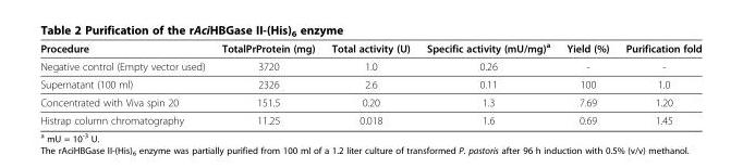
<table><thead><tr><td>Procedure</td><td>TotalPrProtein (mg)</td><td>Total activity (U)</td><td>Specific activity (mU/mg)<sup>a</sup></td><td>Yield (%)</td><td>Purification fold</td></tr></thead><tbody><tr><td>Negative control (Empty vector used)</td><td>3720</td><td>1.0</td><td>0.26</td><td>-</td><td>-</td></tr><tr><td>Supernatant (100 ml)</td><td>2326</td><td>2.6</td><td>0.11</td><td>100</td><td>1.0</td></tr><tr><td>Concentrated with Viva spin 20</td><td>151.5</td><td>0.20</td><td>1.3</td><td>7.69</td><td>1.20</td></tr><tr><td>Histrap column chromatography</td><td>11.25</td><td>0.018</td><td>1.6</td><td>0.69</td><td>1.45</td></tr></tbody></table>